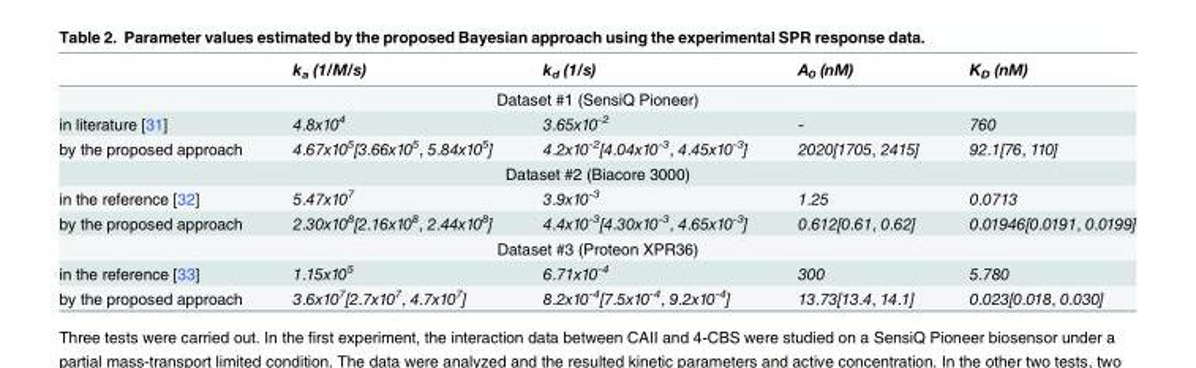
<table><thead><tr><td></td><td>k<sub>a</sub> (1/M/s)</td><td>k<sub>d</sub> (1/s)</td><td>A<sub>0</sub> (nM)</td><td>K<sub>D</sub> (nM)</td></tr></thead><tbody><tr><td colspan="5">Dataset #1 (SensiQ Pioneer)</td></tr><tr><td>in literature [31]</td><td>4.8x10<sup>4</sup></td><td>3.65x10<sup>-2</sup></td><td>-</td><td>760</td></tr><tr><td>by the proposed approach</td><td>4.67x10<sup>5</sup>[3.66x10<sup>5</sup>, 5.84x10<sup>5</sup>]</td><td>4.2x10<sup>-2</sup>[4.04x10<sup>-3</sup>, 4.45x10<sup>-3</sup>]</td><td>2020[1705, 2415]</td><td>92.1[76, 110]</td></tr><tr><td colspan="5">Dataset #2 (Biacore 3000)</td></tr><tr><td>in the reference [32]</td><td>5.47x10<sup>7</sup></td><td>3.9x10<sup>-3</sup></td><td>1.25</td><td>0.0713</td></tr><tr><td>by the proposed approach</td><td>2.30x10<sup>8</sup>[2.16x10<sup>8</sup>, 2.44x10<sup>8</sup>]</td><td>4.4x10<sup>-3</sup>[4.30x10<sup>-3</sup>, 4.65x10<sup>-3</sup>]</td><td>0.612[0.61, 0.62]</td><td>0.01946[0.0191, 0.0199]</td></tr><tr><td colspan="5">Dataset #3 (Proteon XPR36)</td></tr><tr><td>in the reference [33]</td><td>1.15x10<sup>5</sup></td><td>6.71x10<sup>-4</sup></td><td>300</td><td>5.780</td></tr><tr><td>by the proposed approach</td><td>3.6x10<sup>7</sup>[2.7x10<sup>7</sup>, 4.7x10<sup>7</sup>]</td><td>8.2x10<sup>-4</sup>[7.5x10<sup>-4</sup>, 9.2x10<sup>-4</sup>]</td><td>13.73[13.4, 14.1]</td><td>0.023[0.018, 0.030]</td></tr></tbody></table>